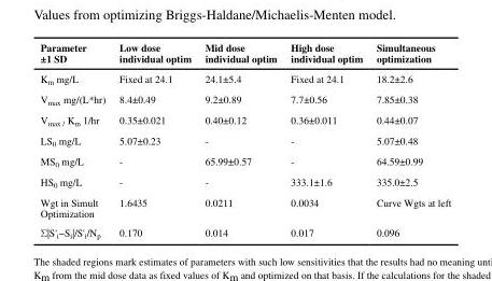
<table><thead><tr><td>Parameter ±1 SD</td><td>Low dose individual optim</td><td>Mid dose individual optim</td><td>High dose individual optim</td><td>Simultaneous optimization</td></tr></thead><tbody><tr><td>K<sub>m</sub> mg/L</td><td>Fixed at 24.1</td><td>24.1±5.4</td><td>Fixed at 24.1</td><td>18.2±2.6</td></tr><tr><td>V<sub>max</sub> mg/(L*hr)</td><td>8.4±0.49</td><td>9.2±0.89</td><td>7.7±0.56</td><td>7.85±0.38</td></tr><tr><td>V<sub>max /</sub> K<sub>m</sub> 1/hr</td><td>0.35±0.021</td><td>0.40±0.12</td><td>0.36±0.011</td><td>0.44±0.07</td></tr><tr><td>LS<sub>0</sub> mg/L</td><td>5.07±0.23</td><td>-</td><td>-</td><td>5.07±0.48</td></tr><tr><td>MS<sub>0</sub> mg/L</td><td>-</td><td>65.99±0.57</td><td>-</td><td>64.59±0.99</td></tr><tr><td>HS<sub>0</sub> mg/L</td><td>-</td><td>-</td><td>333.1±1.6</td><td>335.0±2.5</td></tr><tr><td>Wgt in Simult Optimization</td><td>1.6435</td><td>0.0211</td><td>0.0034</td><td>Curve Wgts at left</td></tr><tr><td>Σ|S&#x27;<sub>i</sub>−S<sub>i</sub>|/S&#x27;<sub>i</sub>/N<sub>p</sub></td><td>0.170</td><td>0.014</td><td>0.017</td><td>0.096</td></tr></tbody></table>